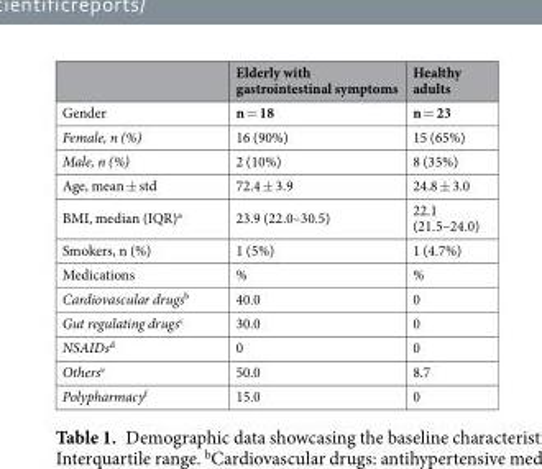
<table><thead><tr><td></td><td>Elderly with gastrointestinal symptoms</td><td>Healthy adults</td></tr></thead><tbody><tr><td>Gender</td><td>n = 18</td><td>n = 23</td></tr><tr><td>Female, n (%)</td><td>16 (90%)</td><td>15 (65%)</td></tr><tr><td>Male, n (%)</td><td>2 (10%)</td><td>8 (35%)</td></tr><tr><td>Age, mean ± std</td><td>72.4 ± 3.9</td><td>24.8 ± 3.0</td></tr><tr><td>BMI, median (IQR)<sup>a</sup></td><td>23.9 (22.0–30.5)</td><td>22.1 (21.5–24.0)</td></tr><tr><td>Smokers, n (%)</td><td>1 (5%)</td><td>1 (4.7%)</td></tr><tr><td>Medications</td><td>%</td><td>%</td></tr><tr><td>Cardiovascular drugs<sup>b</sup></td><td>40.0</td><td>0</td></tr><tr><td>Gut regulating drugs<sup>c</sup></td><td>30.0</td><td>0</td></tr><tr><td>NSAIDs<sup>d</sup></td><td>0</td><td>0</td></tr><tr><td>Others<sup>e</sup></td><td>50.0</td><td>8.7</td></tr><tr><td>Polypharmacy<sup>f</sup></td><td>15.0</td><td>0</td></tr></tbody></table>